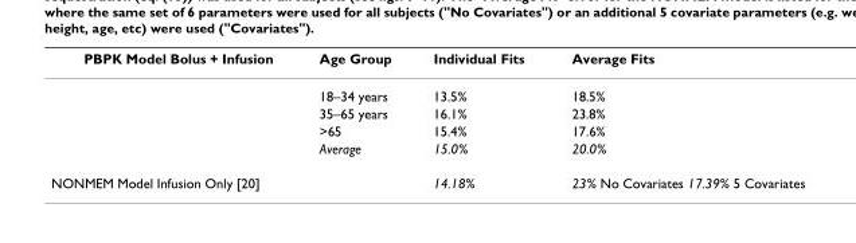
<table><thead><tr><td>PBPK Model Bolus + Infusion</td><td>Age Group</td><td>Individual Fits</td><td>Average Fits</td></tr></thead><tbody><tr><td></td><td>18–34 years</td><td>13.5%</td><td>18.5%</td></tr><tr><td></td><td>35–65 years</td><td>16.1%</td><td>23.8%</td></tr><tr><td></td><td>&gt;65</td><td>15.4%</td><td>17.6%</td></tr><tr><td></td><td>Average</td><td>15.0%</td><td>20.0%</td></tr><tr><td colspan="2">NONMEM Model Infusion Only [20]</td><td>14.18%</td><td>23% No Covariates 17.39% 5 Covariates</td></tr></tbody></table>